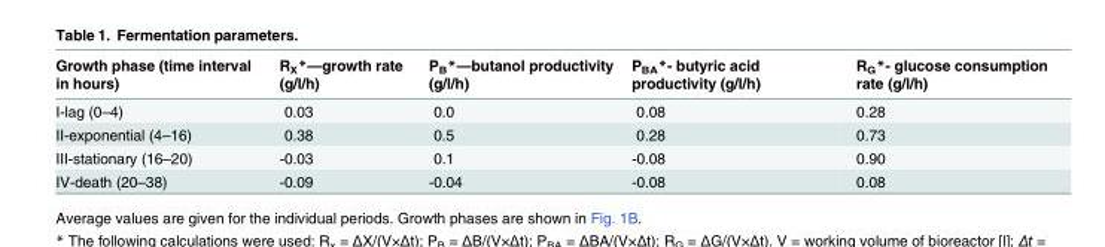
<table><thead><tr><td>Growth phase (time interval in hours)</td><td>R<sub>X</sub>*—growth rate (g/l/h)</td><td>P<sub>B</sub>*—butanol productivity (g/l/h)</td><td>P<sub>BA</sub>*- butyric acid productivity (g/l/h)</td><td>R<sub>G</sub>*- glucose consumption rate (g/l/h)</td></tr></thead><tbody><tr><td>I-lag (0–4)</td><td>0.03</td><td>0.0</td><td>0.08</td><td>0.28</td></tr><tr><td>II-exponential (4–16)</td><td>0.38</td><td>0.5</td><td>0.28</td><td>0.73</td></tr><tr><td>III-stationary (16–20)</td><td>-0.03</td><td>0.1</td><td>-0.08</td><td>0.90</td></tr><tr><td>IV-death (20–38)</td><td>-0.09</td><td>-0.04</td><td>-0.08</td><td>0.08</td></tr></tbody></table>